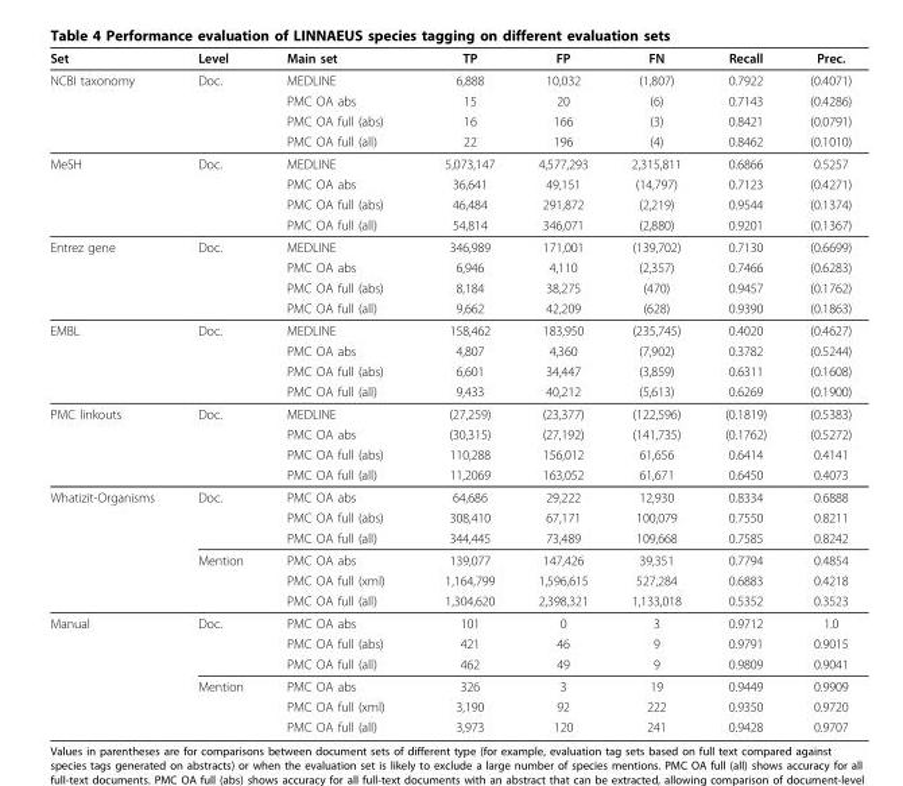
<table><thead><tr><td>Set</td><td>Level</td><td>Main set</td><td>TP</td><td>FP</td><td>FN</td><td>Recall</td><td>Prec.</td></tr></thead><tbody><tr><td rowspan="4">NCBI taxonomy</td><td>Doc.</td><td>MEDLINE</td><td>6,888</td><td>10,032</td><td>(1,807)</td><td>0.7922</td><td>(0.4071)</td></tr><tr><td></td><td>PMC OA abs</td><td>15</td><td>20</td><td>(6)</td><td>0.7143</td><td>(0.4286)</td></tr><tr><td></td><td>PMC OA full (abs)</td><td>16</td><td>166</td><td>(3)</td><td>0.8421</td><td>(0.0791)</td></tr><tr><td></td><td>PMC OA full (all)</td><td>22</td><td>196</td><td>(4)</td><td>0.8462</td><td>(0.1010)</td></tr><tr><td rowspan="4">MeSH</td><td>Doc.</td><td>MEDLINE</td><td>5,073,147</td><td>4,577,293</td><td>2,315,811</td><td>0.6866</td><td>0.5257</td></tr><tr><td></td><td>PMC OA abs</td><td>36,641</td><td>49,151</td><td>(14,797)</td><td>0.7123</td><td>(0.4271)</td></tr><tr><td></td><td>PMC OA full (abs)</td><td>46,484</td><td>291,872</td><td>(2,219)</td><td>0.9544</td><td>(0.1374)</td></tr><tr><td></td><td>PMC OA full (all)</td><td>54,814</td><td>346,071</td><td>(2,880)</td><td>0.9201</td><td>(0.1367)</td></tr><tr><td rowspan="4">Entrez gene</td><td>Doc.</td><td>MEDLINE</td><td>346,989</td><td>171,001</td><td>(139,702)</td><td>0.7130</td><td>(0.6699)</td></tr><tr><td></td><td>PMC OA abs</td><td>6,946</td><td>4,110</td><td>(2,357)</td><td>0.7466</td><td>(0.6283)</td></tr><tr><td></td><td>PMC OA full (abs)</td><td>8,184</td><td>38,275</td><td>(470)</td><td>0.9457</td><td>(0.1762)</td></tr><tr><td></td><td>PMC OA full (all)</td><td>9,662</td><td>42,209</td><td>(628)</td><td>0.9390</td><td>(0.1863)</td></tr><tr><td rowspan="4">EMBL</td><td>Doc.</td><td>MEDLINE</td><td>158,462</td><td>183,950</td><td>(235,745)</td><td>0.4020</td><td>(0.4627)</td></tr><tr><td></td><td>PMC OA abs</td><td>4,807</td><td>4,360</td><td>(7,902)</td><td>0.3782</td><td>(0.5244)</td></tr><tr><td></td><td>PMC OA full (abs)</td><td>6,601</td><td>34,447</td><td>(3,859)</td><td>0.6311</td><td>(0.1608)</td></tr><tr><td></td><td>PMC OA full (all)</td><td>9,433</td><td>40,212</td><td>(5,613)</td><td>0.6269</td><td>(0.1900)</td></tr><tr><td rowspan="4">PMC linkouts</td><td>Doc.</td><td>MEDLINE</td><td>(27,259)</td><td>(23,377)</td><td>(122,596)</td><td>(0.1819)</td><td>(0.5383)</td></tr><tr><td></td><td>PMC OA abs</td><td>(30,315)</td><td>(27,192)</td><td>(141,735)</td><td>(0.1762)</td><td>(0.5272)</td></tr><tr><td></td><td>PMC OA full (abs)</td><td>110,288</td><td>156,012</td><td>61,656</td><td>0.6414</td><td>0.4141</td></tr><tr><td></td><td>PMC OA full (all)</td><td>11,2069</td><td>163,052</td><td>61,671</td><td>0.6450</td><td>0.4073</td></tr><tr><td rowspan="6">Whatizit-Organisms</td><td>Doc.</td><td>PMC OA abs</td><td>64,686</td><td>29,222</td><td>12,930</td><td>0.8334</td><td>0.6888</td></tr><tr><td></td><td>PMC OA full (abs)</td><td>308,410</td><td>67,171</td><td>100,079</td><td>0.7550</td><td>0.8211</td></tr><tr><td></td><td>PMC OA full (all)</td><td>344,445</td><td>73,489</td><td>109,668</td><td>0.7585</td><td>0.8242</td></tr><tr><td>Mention</td><td>PMC OA abs</td><td>139,077</td><td>147,426</td><td>39,351</td><td>0.7794</td><td>0.4854</td></tr><tr><td></td><td>PMC OA full (xml)</td><td>1,164,799</td><td>1,596,615</td><td>527,284</td><td>0.6883</td><td>0.4218</td></tr><tr><td></td><td>PMC OA full (all)</td><td>1,304,620</td><td>2,398,321</td><td>1,133,018</td><td>0.5352</td><td>0.3523</td></tr><tr><td rowspan="6">Manual</td><td>Doc.</td><td>PMC OA abs</td><td>101</td><td>0</td><td>3</td><td>0.9712</td><td>1.0</td></tr><tr><td></td><td>PMC OA full (abs)</td><td>421</td><td>46</td><td>9</td><td>0.9791</td><td>0.9015</td></tr><tr><td></td><td>PMC OA full (all)</td><td>462</td><td>49</td><td>9</td><td>0.9809</td><td>0.9041</td></tr><tr><td>Mention</td><td>PMC OA abs</td><td>326</td><td>3</td><td>19</td><td>0.9449</td><td>0.9909</td></tr><tr><td></td><td>PMC OA full (xml)</td><td>3,190</td><td>92</td><td>222</td><td>0.9350</td><td>0.9720</td></tr><tr><td></td><td>PMC OA full (all)</td><td>3,973</td><td>120</td><td>241</td><td>0.9428</td><td>0.9707</td></tr></tbody></table>